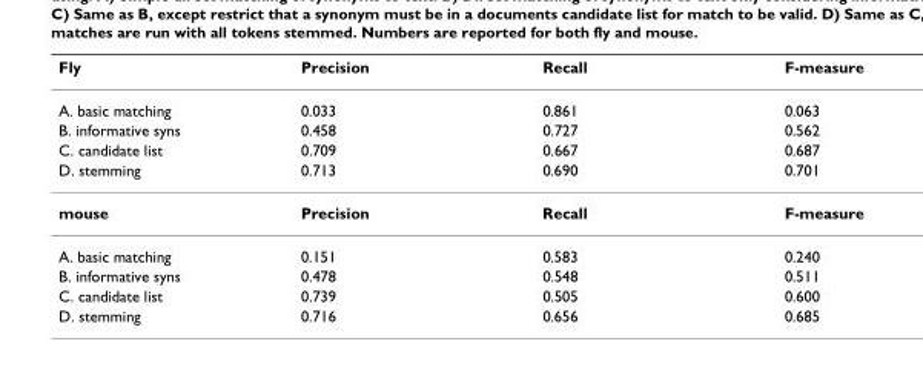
<table><thead><tr><td>Fly</td><td>Precision</td><td>Recall</td><td>F-measure</td></tr></thead><tbody><tr><td>A. basic matching</td><td>0.033</td><td>0.861</td><td>0.063</td></tr><tr><td>B. informative syns</td><td>0.458</td><td>0.727</td><td>0.562</td></tr><tr><td>C. candidate list</td><td>0.709</td><td>0.667</td><td>0.687</td></tr><tr><td>D. stemming</td><td>0.713</td><td>0.690</td><td>0.701</td></tr><tr><td>mouse</td><td>Precision</td><td>Recall</td><td>F-measure</td></tr><tr><td>A. basic matching</td><td>0.151</td><td>0.583</td><td>0.240</td></tr><tr><td>B. informative syns</td><td>0.478</td><td>0.548</td><td>0.511</td></tr><tr><td>C. candidate list</td><td>0.739</td><td>0.505</td><td>0.600</td></tr><tr><td>D. stemming</td><td>0.716</td><td>0.656</td><td>0.685</td></tr></tbody></table>